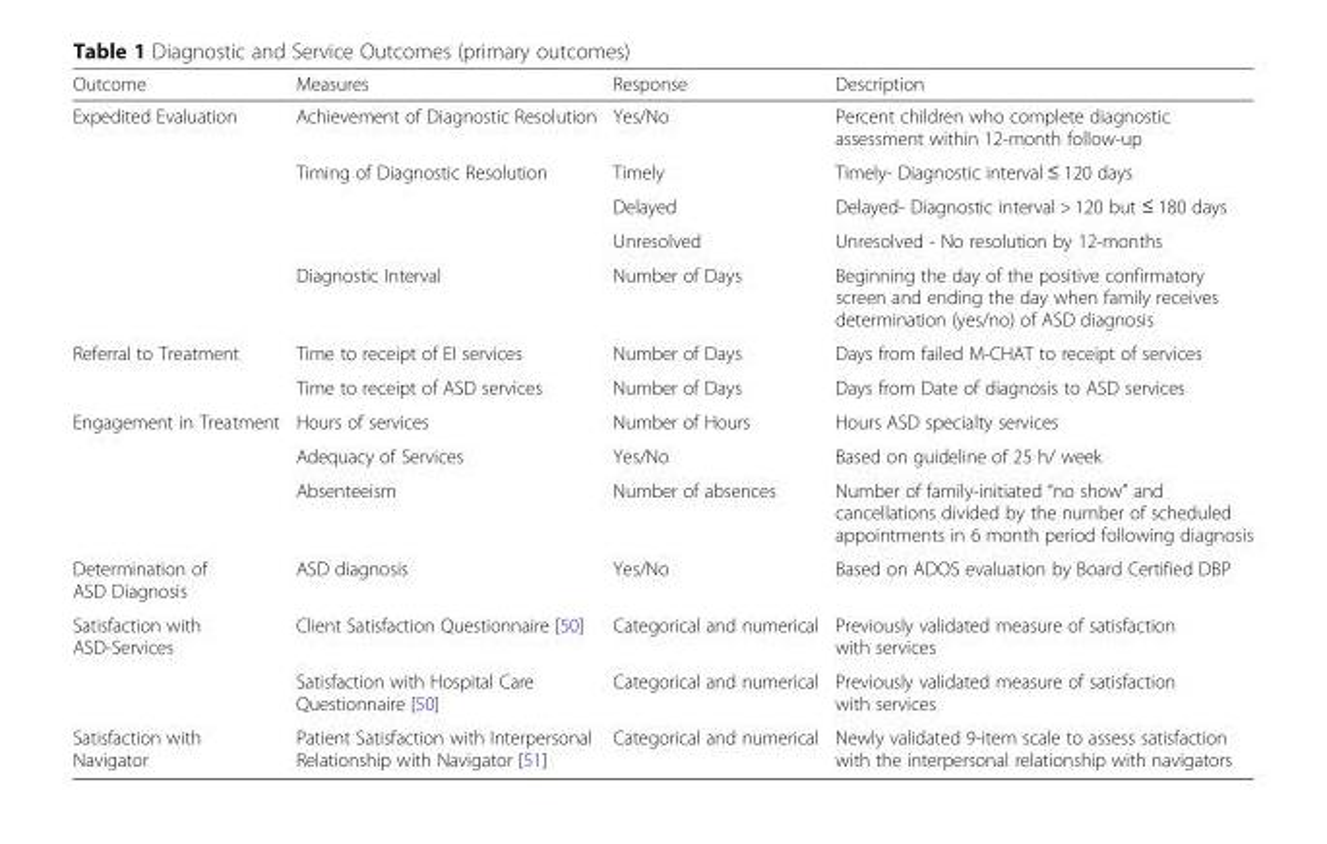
<table><thead><tr><td>Outcome</td><td>Measures</td><td>Response</td><td>Description</td></tr></thead><tbody><tr><td rowspan="5">Expedited Evaluation</td><td>Achievement of Diagnostic Resolution</td><td>Yes/No</td><td>Percent children who complete diagnostic assessment within 12-month follow-up</td></tr><tr><td rowspan="3">Timing of Diagnostic Resolution</td><td>Timely</td><td>Timely- Diagnostic interval ≤ 120 days</td></tr><tr><td>Delayed</td><td>Delayed- Diagnostic interval &gt; 120 but ≤ 180 days</td></tr><tr><td>Unresolved</td><td>Unresolved - No resolution by 12-months</td></tr><tr><td>Diagnostic Interval</td><td>Number of Days</td><td>Beginning the day of the positive confirmatory screen and ending the day when family receives determination (yes/no) of ASD diagnosis</td></tr><tr><td rowspan="2">Referral to Treatment</td><td>Time to receipt of EI services</td><td>Number of Days</td><td>Days from failed M-CHAT to receipt of services</td></tr><tr><td>Time to receipt of ASD services</td><td>Number of Days</td><td>Days from Date of diagnosis to ASD services</td></tr><tr><td rowspan="3">Engagement in Treatment</td><td>Hours of services</td><td>Number of Hours</td><td>Hours ASD specialty services</td></tr><tr><td>Adequacy of Services</td><td>Yes/No</td><td>Based on guideline of 25 h/ week</td></tr><tr><td>Absenteeism</td><td>Number of absences</td><td>Number of family-initiated “no show” and cancellations divided by the number of scheduled appointments in 6 month period following diagnosis</td></tr><tr><td>Determination of ASD Diagnosis</td><td>ASD diagnosis</td><td>Yes/No</td><td>Based on ADOS evaluation by Board Certified DBP</td></tr><tr><td rowspan="2">Satisfaction with ASD-Services</td><td>Client Satisfaction Questionnaire [50]</td><td>Categorical and numerical</td><td>Previously validated measure of satisfaction with services</td></tr><tr><td>Satisfaction with Hospital Care Questionnaire [50]</td><td>Categorical and numerical</td><td>Previously validated measure of satisfaction with services</td></tr><tr><td>Satisfaction with Navigator</td><td>Patient Satisfaction with Interpersonal Relationship with Navigator [51]</td><td>Categorical and numerical</td><td>Newly validated 9-item scale to assess satisfaction with the interpersonal relationship with navigators</td></tr></tbody></table>